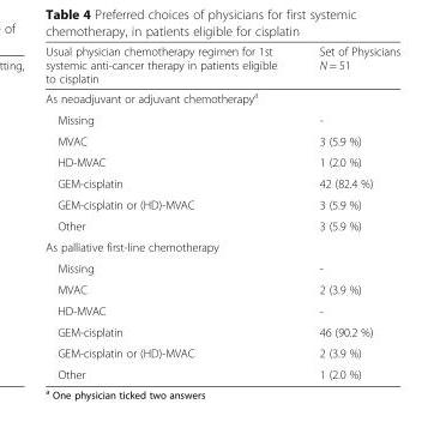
<table><thead><tr><td>Usual physician chemotherapy regimen for 1st systemic anti-cancer therapy in patients eligible to cisplatin</td><td>Set of Physicians N = 51</td></tr></thead><tbody><tr><td colspan="2">As neoadjuvant or adjuvant chemotherapy<sup>a</sup></td></tr><tr><td>Missing</td><td>-</td></tr><tr><td>MVAC</td><td>3 (5.9 %)</td></tr><tr><td>HD-MVAC</td><td>1 (2.0 %)</td></tr><tr><td>GEM-cisplatin</td><td>42 (82.4 %)</td></tr><tr><td>GEM-cisplatin or (HD)-MVAC</td><td>3 (5.9 %)</td></tr><tr><td>Other</td><td>3 (5.9 %)</td></tr><tr><td colspan="2">As palliative first-line chemotherapy</td></tr><tr><td>Missing</td><td>-</td></tr><tr><td>MVAC</td><td>2 (3.9 %)</td></tr><tr><td>HD-MVAC</td><td>-</td></tr><tr><td>GEM-cisplatin</td><td>46 (90.2 %)</td></tr><tr><td>GEM-cisplatin or (HD)-MVAC</td><td>2 (3.9 %)</td></tr><tr><td>Other</td><td>1 (2.0 %)</td></tr></tbody></table>